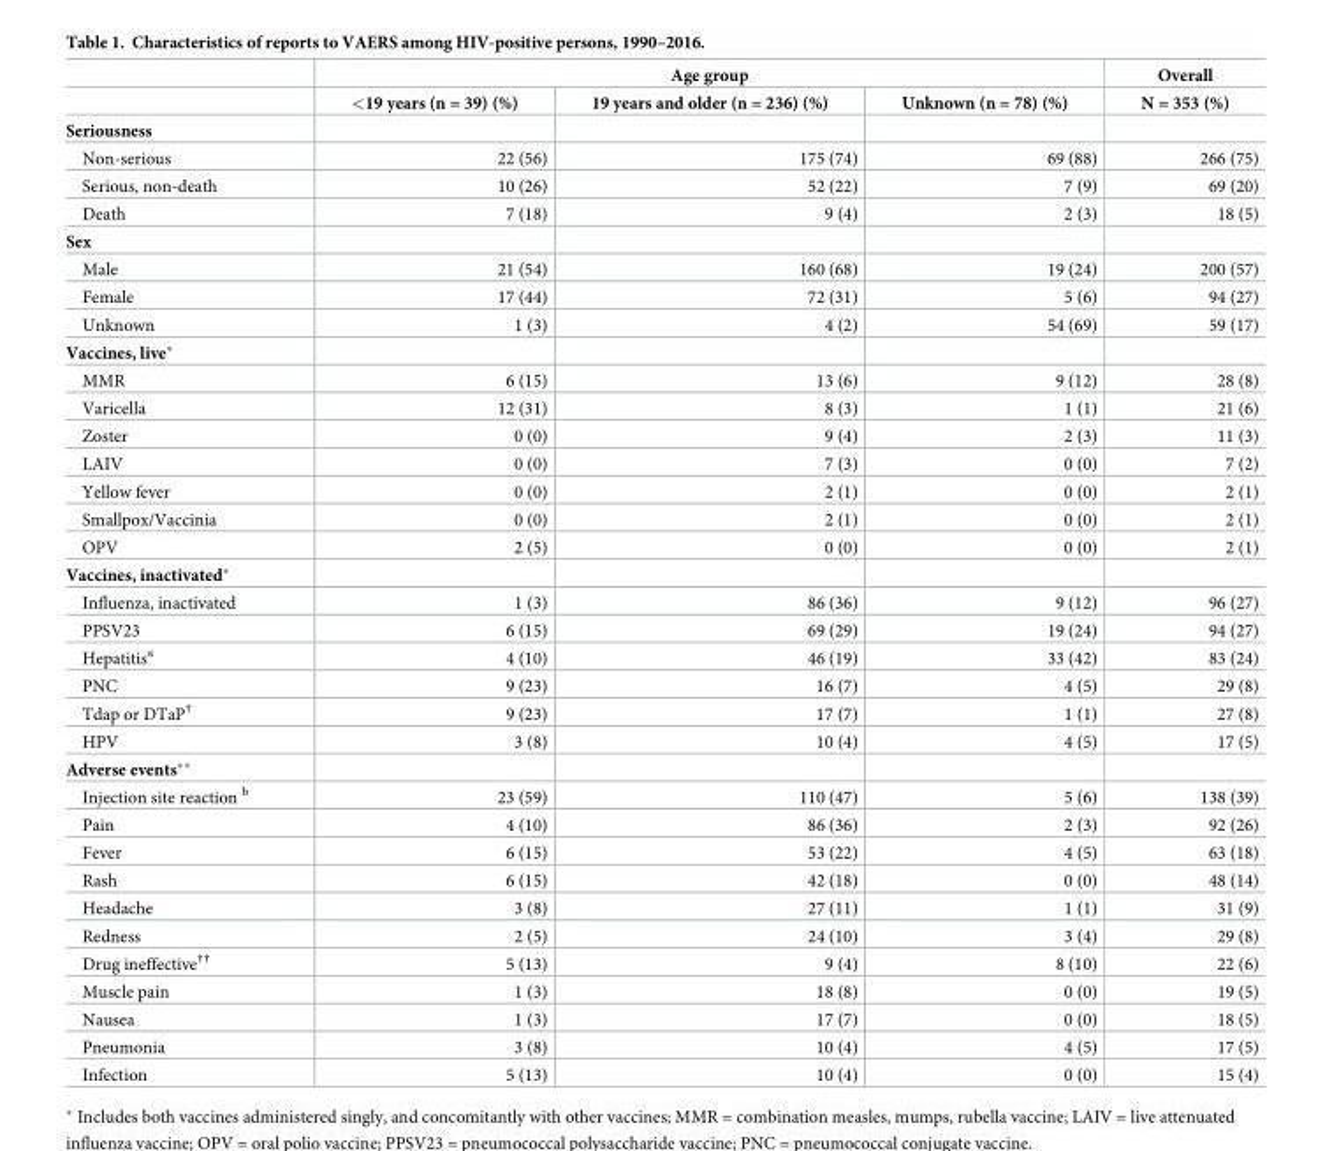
<table><thead><tr><td rowspan="2"></td><td colspan="3">Age group</td><td rowspan="2">Overall N = 353 (%)</td></tr><tr><td>&lt;19 years (n = 39) (%)</td><td>19 years and older (n = 236) (%)</td><td>Unknown (n = 78) (%)</td></tr></thead><tbody><tr><td colspan="5">Seriousness</td></tr><tr><td>Non-serious</td><td>22 (56)</td><td>175 (74)</td><td>69 (88)</td><td>266 (75)</td></tr><tr><td>Serious, non-death</td><td>10 (26)</td><td>52 (22)</td><td>7 (9)</td><td>69 (20)</td></tr><tr><td>Death</td><td>7 (18)</td><td>9 (4)</td><td>2 (3)</td><td>18 (5)</td></tr><tr><td colspan="5">Sex</td></tr><tr><td>Male</td><td>21 (54)</td><td>160 (68)</td><td>19 (24)</td><td>200 (57)</td></tr><tr><td>Female</td><td>17 (44)</td><td>72 (31)</td><td>5 (6)</td><td>94 (27)</td></tr><tr><td>Unknown</td><td>1 (3)</td><td>4 (2)</td><td>54 (69)</td><td>59 (17)</td></tr><tr><td colspan="5">Vaccines, live*</td></tr><tr><td>MMR</td><td>6 (15)</td><td>13 (6)</td><td>9 (12)</td><td>28 (8)</td></tr><tr><td>Varicella</td><td>12 (31)</td><td>8 (3)</td><td>1 (1)</td><td>21 (6)</td></tr><tr><td>Zoster</td><td>0 (0)</td><td>9 (4)</td><td>2 (3)</td><td>11 (3)</td></tr><tr><td>LAIV</td><td>0 (0)</td><td>7 (3)</td><td>0 (0)</td><td>7 (2)</td></tr><tr><td>Yellow fever</td><td>0 (0)</td><td>2 (1)</td><td>0 (0)</td><td>2 (1)</td></tr><tr><td>Smallpox/Vaccinia</td><td>0 (0)</td><td>2 (1)</td><td>0 (0)</td><td>2 (1)</td></tr><tr><td>OPV</td><td>2 (5)</td><td>0 (0)</td><td>0 (0)</td><td>2 (1)</td></tr><tr><td colspan="5">Vaccines, inactivated*</td></tr><tr><td>Influenza, inactivated</td><td>1 (3)</td><td>86 (36)</td><td>9 (12)</td><td>96 (27)</td></tr><tr><td>PPSV23</td><td>6 (15)</td><td>69 (29)</td><td>19 (24)</td><td>94 (27)</td></tr><tr><td>Hepatitis<sup>a</sup></td><td>4 (10)</td><td>46 (19)</td><td>33 (42)</td><td>83 (24)</td></tr><tr><td>PNC</td><td>9 (23)</td><td>16 (7)</td><td>4 (5)</td><td>29 (8)</td></tr><tr><td>Tdap or DTaP<sup>†</sup></td><td>9 (23)</td><td>17 (7)</td><td>1 (1)</td><td>27 (8)</td></tr><tr><td>HPV</td><td>3 (8)</td><td>10 (4)</td><td>4 (5)</td><td>17 (5)</td></tr><tr><td colspan="5">Adverse events**</td></tr><tr><td>Injection site reaction <sup>b</sup></td><td>23 (59)</td><td>110 (47)</td><td>5 (6)</td><td>138 (39)</td></tr><tr><td>Pain</td><td>4 (10)</td><td>86 (36)</td><td>2 (3)</td><td>92 (26)</td></tr><tr><td>Fever</td><td>6 (15)</td><td>53 (22)</td><td>4 (5)</td><td>63 (18)</td></tr><tr><td>Rash</td><td>6 (15)</td><td>42 (18)</td><td>0 (0)</td><td>48 (14)</td></tr><tr><td>Headache</td><td>3 (8)</td><td>27 (11)</td><td>1 (1)</td><td>31 (9)</td></tr><tr><td>Redness</td><td>2 (5)</td><td>24 (10)</td><td>3 (4)</td><td>29 (8)</td></tr><tr><td>Drug ineffective<sup>††</sup></td><td>5 (13)</td><td>9 (4)</td><td>8 (10)</td><td>22 (6)</td></tr><tr><td>Muscle pain</td><td>1 (3)</td><td>18 (8)</td><td>0 (0)</td><td>19 (5)</td></tr><tr><td>Nausea</td><td>1 (3)</td><td>17 (7)</td><td>0 (0)</td><td>18 (5)</td></tr><tr><td>Pneumonia</td><td>3 (8)</td><td>10 (4)</td><td>4 (5)</td><td>17 (5)</td></tr><tr><td>Infection</td><td>5 (13)</td><td>10 (4)</td><td>0 (0)</td><td>15 (4)</td></tr></tbody></table>